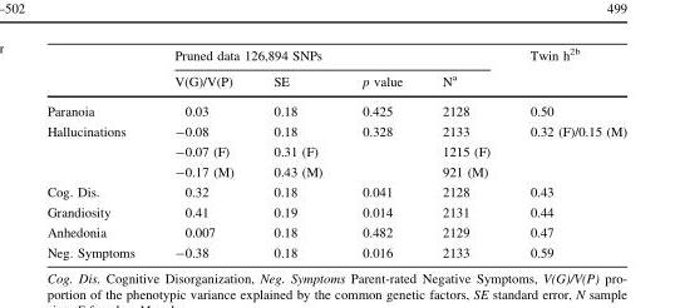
<table><thead><tr><td rowspan="2"></td><td colspan="4">Pruned data 126,894 SNPs</td><td rowspan="2">Twin h<sup>2b</sup></td></tr><tr><td>V(G)/V(P)</td><td>SE</td><td>p value</td><td>N<sup>a</sup></td></tr></thead><tbody><tr><td>Paranoia</td><td>0.03</td><td>0.18</td><td>0.425</td><td>2128</td><td>0.50</td></tr><tr><td rowspan="3">Hallucinations</td><td>-0.08</td><td>0.18</td><td>0.328</td><td>2133</td><td>0.32 (F)/0.15 (M)</td></tr><tr><td>-0.07 (F)</td><td>0.31 (F)</td><td></td><td>1215 (F)</td><td></td></tr><tr><td>-0.17 (M)</td><td>0.43 (M)</td><td></td><td>921 (M)</td><td></td></tr><tr><td>Cog. Dis.</td><td>0.32</td><td>0.18</td><td>0.041</td><td>2128</td><td>0.43</td></tr><tr><td>Grandiosity</td><td>0.41</td><td>0.19</td><td>0.014</td><td>2131</td><td>0.44</td></tr><tr><td>Anhedonia</td><td>0.007</td><td>0.18</td><td>0.482</td><td>2129</td><td>0.47</td></tr><tr><td>Neg. Symptoms</td><td>-0.38</td><td>0.18</td><td>0.016</td><td>2133</td><td>0.59</td></tr></tbody></table>